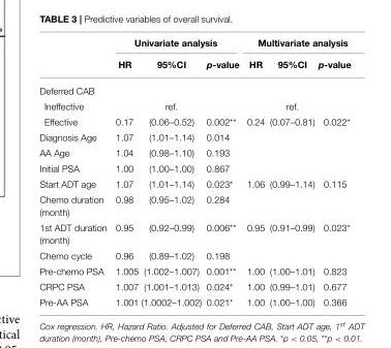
<table><thead><tr><td rowspan="2"></td><td colspan="3">Univariate analysis</td><td colspan="3">Multivariate analysis</td></tr><tr><td>HR</td><td>95%CI</td><td>p-value</td><td>HR</td><td>95%CI</td><td>p-value</td></tr></thead><tbody><tr><td colspan="7">Deferred CAB</td></tr><tr><td>Ineffective</td><td></td><td>ref.</td><td></td><td></td><td>ref.</td><td></td></tr><tr><td>Effective</td><td>0.17</td><td>(0.06–0.52)</td><td>0.002**</td><td>0.24</td><td>(0.07–0.81)</td><td>0.022*</td></tr><tr><td>Diagnosis Age</td><td>1.07</td><td>(1.01–1.14)</td><td>0.014</td><td></td><td></td><td></td></tr><tr><td>AA Age</td><td>1.04</td><td>(0.98–1.10)</td><td>0.193</td><td></td><td></td><td></td></tr><tr><td>Initial PSA</td><td>1.00</td><td>(1.00–1.00)</td><td>0.867</td><td></td><td></td><td></td></tr><tr><td>Start ADT age</td><td>1.07</td><td>(1.01–1.14)</td><td>0.023*</td><td>1.06</td><td>(0.99–1.14)</td><td>0.115</td></tr><tr><td>Chemo duration (month)</td><td>0.98</td><td>(0.95–1.02)</td><td>0.284</td><td></td><td></td><td></td></tr><tr><td>1st ADT duration (month)</td><td>0.95</td><td>(0.92–0.99)</td><td>0.006**</td><td>0.95</td><td>(0.91–0.99)</td><td>0.023*</td></tr><tr><td>Chemo cycle</td><td>0.96</td><td>(0.89–1.02)</td><td>0.198</td><td></td><td></td><td></td></tr><tr><td>Pre-chemo PSA</td><td>1.005</td><td>(1.002–1.007)</td><td>0.001**</td><td>1.00</td><td>(1.00–1.01)</td><td>0.823</td></tr><tr><td>CRPC PSA</td><td>1.007</td><td>(1.001–1.013)</td><td>0.024*</td><td>1.00</td><td>(0.99–1.01)</td><td>0.677</td></tr><tr><td>Pre-AA PSA</td><td>1.001</td><td>(1.0002–1.002)</td><td>0.021*</td><td>1.00</td><td>(1.00–1.00)</td><td>0.366</td></tr></tbody></table>